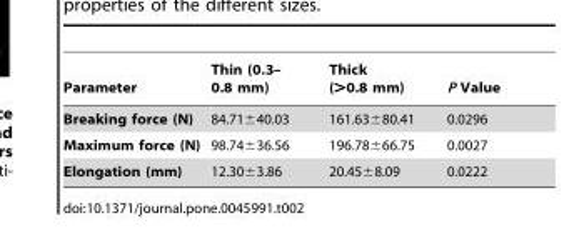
<table><thead><tr><td>Parameter</td><td>Thin (0.3– 0.8 mm)</td><td>Thick (&gt;0.8 mm)</td><td>P Value</td></tr></thead><tbody><tr><td>Breaking force (N)</td><td>84.71±40.03</td><td>161.63±80.41</td><td>0.0296</td></tr><tr><td>Maximum force (N)</td><td>98.74±36.56</td><td>196.78±66.75</td><td>0.0027</td></tr><tr><td>Elongation (mm)</td><td>12.30±3.86</td><td>20.45±8.09</td><td>0.0222</td></tr></tbody></table>